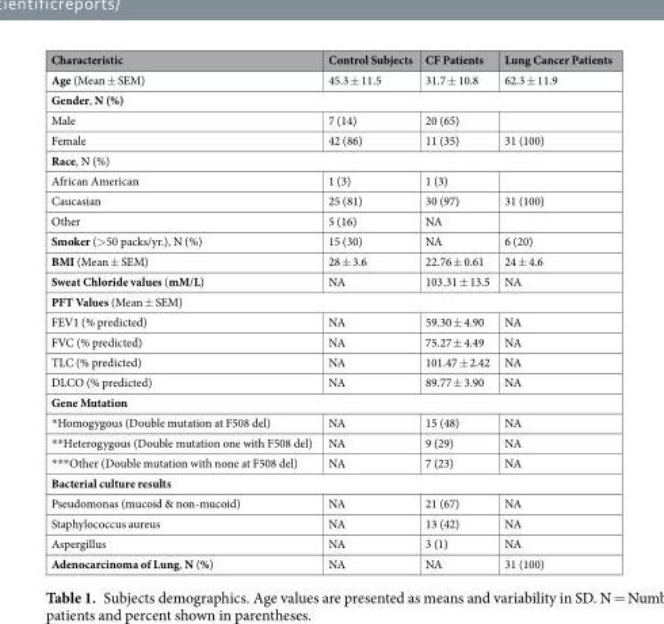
<table><thead><tr><td>Characteristic</td><td>Control Subjects</td><td>CF Patients</td><td>Lung Cancer Patients</td></tr></thead><tbody><tr><td>Age (Mean ± SEM)</td><td>45.3 ± 11.5</td><td>31.7 ± 10.8</td><td>62.3 ± 11.9</td></tr><tr><td colspan="4">Gender, N (%)</td></tr><tr><td>Male</td><td>7 (14)</td><td>20 (65)</td><td></td></tr><tr><td>Female</td><td>42 (86)</td><td>11 (35)</td><td>31 (100)</td></tr><tr><td colspan="4">Race, N (%)</td></tr><tr><td>African American</td><td>1 (3)</td><td>1 (3)</td><td></td></tr><tr><td>Caucasian</td><td>25 (81)</td><td>30 (97)</td><td>31 (100)</td></tr><tr><td>Other</td><td>5 (16)</td><td>NA</td><td></td></tr><tr><td>Smoker (&gt;50 packs/yr.), N (%)</td><td>15 (30)</td><td>NA</td><td>6 (20)</td></tr><tr><td>BMI (Mean ± SEM)</td><td>28 ± 3.6</td><td>22.76 ± 0.61</td><td>24 ± 4.6</td></tr><tr><td>Sweat Chloride values (mM/L)</td><td>NA</td><td>103.31 ± 13.5</td><td>NA</td></tr><tr><td colspan="4">PFT Values (Mean ± SEM)</td></tr><tr><td>FEV1 (% predicted)</td><td>NA</td><td>59.30 ± 4.90</td><td>NA</td></tr><tr><td>FVC (% predicted)</td><td>NA</td><td>75.27 ± 4.49</td><td>NA</td></tr><tr><td>TLC (% predicted)</td><td>NA</td><td>101.47 ± 2.42</td><td>NA</td></tr><tr><td>DLCO (% predicted)</td><td>NA</td><td>89.77 ± 3.90</td><td>NA</td></tr><tr><td colspan="4">Gene Mutation</td></tr><tr><td>*Homogygous (Double mutation at F508 del)</td><td>NA</td><td>15 (48)</td><td>NA</td></tr><tr><td>**Heterogygous (Double mutation one with F508 del)</td><td>NA</td><td>9 (29)</td><td>NA</td></tr><tr><td>***Other (Double mutation with none at F508 del)</td><td>NA</td><td>7 (23)</td><td>NA</td></tr><tr><td colspan="4">Bacterial culture results</td></tr><tr><td>Pseudomonas (mucoid &amp; non-mucoid)</td><td>NA</td><td>21 (67)</td><td>NA</td></tr><tr><td>Staphylococcus aureus</td><td>NA</td><td>13 (42)</td><td>NA</td></tr><tr><td>Aspergillus</td><td>NA</td><td>3 (1)</td><td>NA</td></tr><tr><td>Adenocarcinoma of Lung, N (%)</td><td>NA</td><td>NA</td><td>31 (100)</td></tr></tbody></table>